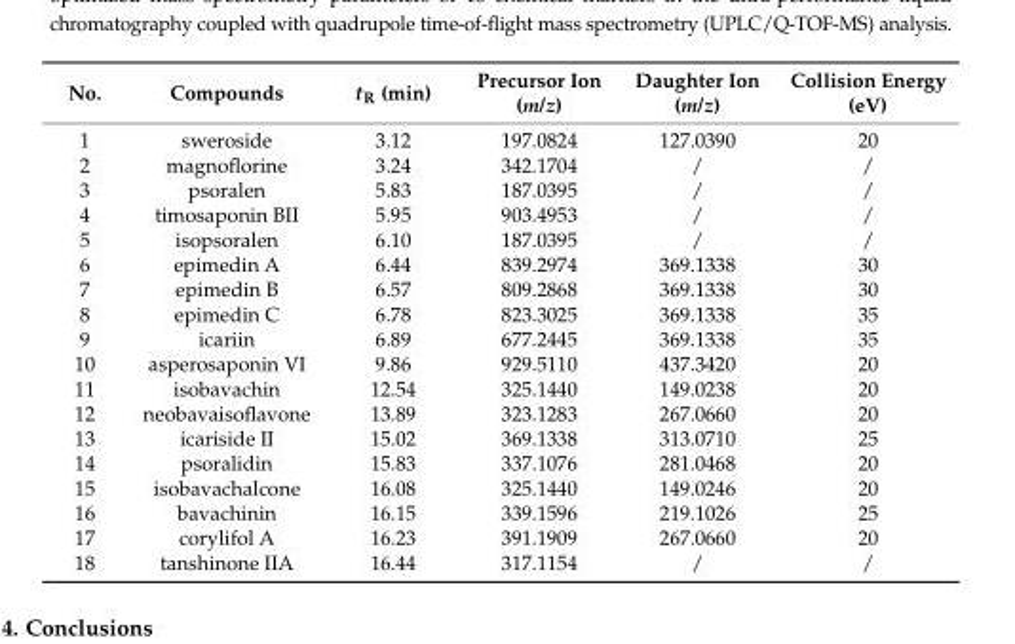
<table><thead><tr><td>No.</td><td>Compounds</td><td>t<sub>R</sub> (min)</td><td>Precursor Ion (m/z)</td><td>Daughter Ion (m/z)</td><td>Collision Energy (eV)</td></tr></thead><tbody><tr><td>1</td><td>sweroside</td><td>3.12</td><td>197.0824</td><td>127.0390</td><td>20</td></tr><tr><td>2</td><td>magnoflorine</td><td>3.24</td><td>342.1704</td><td>/</td><td>/</td></tr><tr><td>3</td><td>psoralen</td><td>5.83</td><td>187.0395</td><td>/</td><td>/</td></tr><tr><td>4</td><td>timosaponin BII</td><td>5.95</td><td>903.4953</td><td>/</td><td>/</td></tr><tr><td>5</td><td>isopsoralen</td><td>6.10</td><td>187.0395</td><td>/</td><td>/</td></tr><tr><td>6</td><td>epimedin A</td><td>6.44</td><td>839.2974</td><td>369.1338</td><td>30</td></tr><tr><td>7</td><td>epimedin B</td><td>6.57</td><td>809.2868</td><td>369.1338</td><td>30</td></tr><tr><td>8</td><td>epimedin C</td><td>6.78</td><td>823.3025</td><td>369.1338</td><td>35</td></tr><tr><td>9</td><td>icariin</td><td>6.89</td><td>677.2445</td><td>369.1338</td><td>35</td></tr><tr><td>10</td><td>asperosaponin VI</td><td>9.86</td><td>929.5110</td><td>437.3420</td><td>20</td></tr><tr><td>11</td><td>isobavachin</td><td>12.54</td><td>325.1440</td><td>149.0238</td><td>20</td></tr><tr><td>12</td><td>neobavaisoflavone</td><td>13.89</td><td>323.1283</td><td>267.0660</td><td>20</td></tr><tr><td>13</td><td>icariside II</td><td>15.02</td><td>369.1338</td><td>313.0710</td><td>25</td></tr><tr><td>14</td><td>psoralidin</td><td>15.83</td><td>337.1076</td><td>281.0468</td><td>20</td></tr><tr><td>15</td><td>isobavachalcone</td><td>16.08</td><td>325.1440</td><td>149.0246</td><td>20</td></tr><tr><td>16</td><td>bavachinin</td><td>16.15</td><td>339.1596</td><td>219.1026</td><td>25</td></tr><tr><td>17</td><td>corylifol A</td><td>16.23</td><td>391.1909</td><td>267.0660</td><td>20</td></tr><tr><td>18</td><td>tanshinone IIA</td><td>16.44</td><td>317.1154</td><td>/</td><td>/</td></tr></tbody></table>